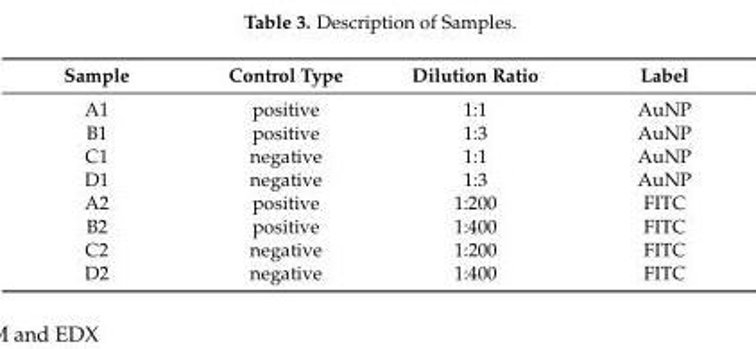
<table><thead><tr><td>Sample</td><td>Control Type</td><td>Dilution Ratio</td><td>Label</td></tr></thead><tbody><tr><td>A1</td><td>positive</td><td>1:1</td><td>AuNP</td></tr><tr><td>B1</td><td>positive</td><td>1:3</td><td>AuNP</td></tr><tr><td>C1</td><td>negative</td><td>1:1</td><td>AuNP</td></tr><tr><td>D1</td><td>negative</td><td>1:3</td><td>AuNP</td></tr><tr><td>A2</td><td>positive</td><td>1:200</td><td>FITC</td></tr><tr><td>B2</td><td>positive</td><td>1:400</td><td>FITC</td></tr><tr><td>C2</td><td>negative</td><td>1:200</td><td>FITC</td></tr><tr><td>D2</td><td>negative</td><td>1:400</td><td>FITC</td></tr></tbody></table>